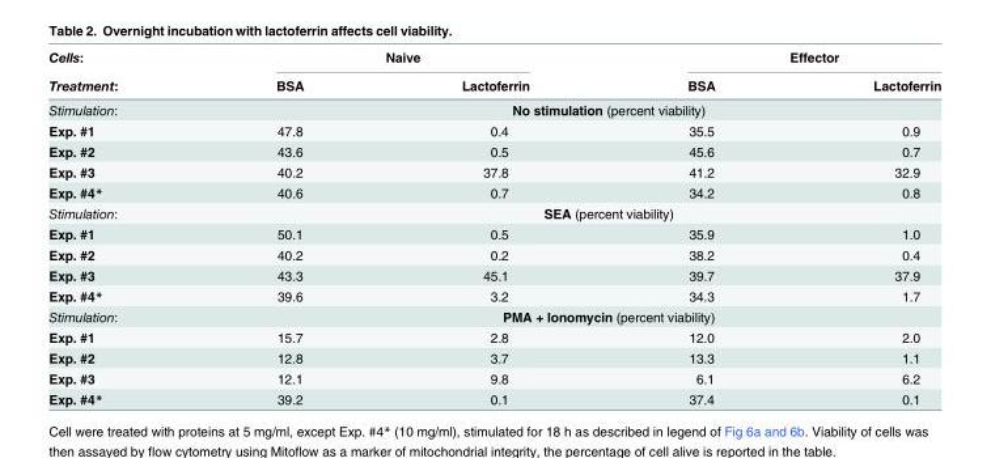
<table><thead><tr><td rowspan="2">Cells: Treatment:</td><td colspan="2">Naive</td><td colspan="2">Effector</td></tr><tr><td>BSA</td><td>Lactoferrin</td><td>BSA</td><td>Lactoferrin</td></tr></thead><tbody><tr><td>Stimulation:</td><td colspan="4">No stimulation (percent viability)</td></tr><tr><td>Exp. #1</td><td>47.8</td><td>0.4</td><td>35.5</td><td>0.9</td></tr><tr><td>Exp. #2</td><td>43.6</td><td>0.5</td><td>45.6</td><td>0.7</td></tr><tr><td>Exp. #3</td><td>40.2</td><td>37.8</td><td>41.2</td><td>32.9</td></tr><tr><td>Exp. #4*</td><td>40.6</td><td>0.7</td><td>34.2</td><td>0.8</td></tr><tr><td>Stimulation:</td><td colspan="4">SEA (percent viability)</td></tr><tr><td>Exp. #1</td><td>50.1</td><td>0.5</td><td>35.9</td><td>1.0</td></tr><tr><td>Exp. #2</td><td>40.2</td><td>0.2</td><td>38.2</td><td>0.4</td></tr><tr><td>Exp. #3</td><td>43.3</td><td>45.1</td><td>39.7</td><td>37.9</td></tr><tr><td>Exp. #4*</td><td>39.6</td><td>3.2</td><td>34.3</td><td>1.7</td></tr><tr><td>Stimulation:</td><td colspan="4">PMA + Ionomycin (percent viability)</td></tr><tr><td>Exp. #1</td><td>15.7</td><td>2.8</td><td>12.0</td><td>2.0</td></tr><tr><td>Exp. #2</td><td>12.8</td><td>3.7</td><td>13.3</td><td>1.1</td></tr><tr><td>Exp. #3</td><td>12.1</td><td>9.8</td><td>6.1</td><td>6.2</td></tr><tr><td>Exp. #4*</td><td>39.2</td><td>0.1</td><td>37.4</td><td>0.1</td></tr></tbody></table>